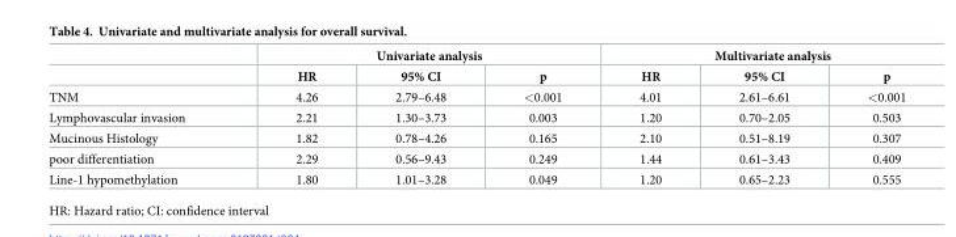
<table><thead><tr><td rowspan="2"></td><td colspan="3">Univariate analysis</td><td colspan="3">Multivariate analysis</td></tr><tr><td>HR</td><td>95% CI</td><td>p</td><td>HR</td><td>95% CI</td><td>p</td></tr></thead><tbody><tr><td>TNM</td><td>4.26</td><td>2.79–6.48</td><td>&lt;0.001</td><td>4.01</td><td>2.61–6.61</td><td>&lt;0.001</td></tr><tr><td>Lymphovascular invasion</td><td>2.21</td><td>1.30–3.73</td><td>0.003</td><td>1.20</td><td>0.70–2.05</td><td>0.503</td></tr><tr><td>Mucinous Histology</td><td>1.82</td><td>0.78–4.26</td><td>0.165</td><td>2.10</td><td>0.51–8.19</td><td>0.307</td></tr><tr><td>poor differentiation</td><td>2.29</td><td>0.56–9.43</td><td>0.249</td><td>1.44</td><td>0.61–3.43</td><td>0.409</td></tr><tr><td>Line-1 hypomethylation</td><td>1.80</td><td>1.01–3.28</td><td>0.049</td><td>1.20</td><td>0.65–2.23</td><td>0.555</td></tr></tbody></table>